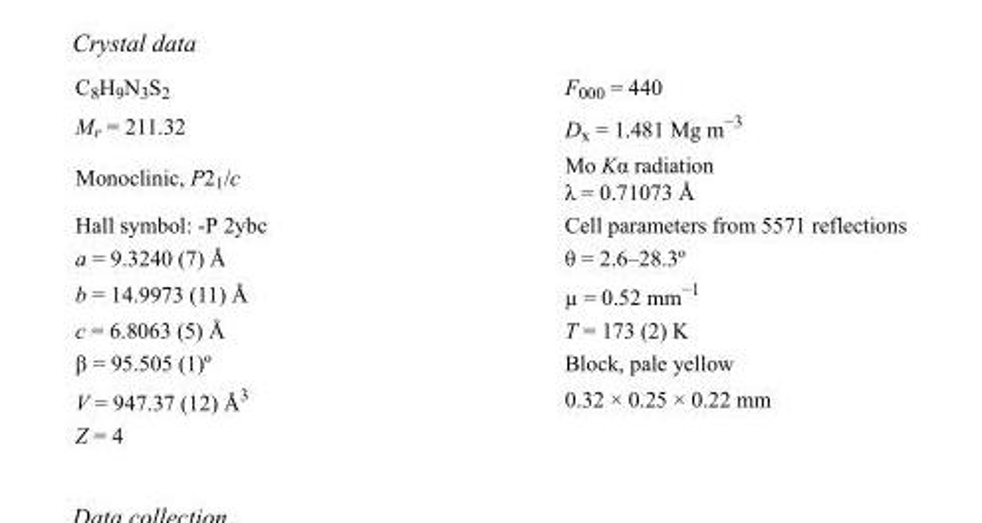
<table><tbody><tr><td>C<sub>8</sub>H<sub>9</sub>N<sub>3</sub>S<sub>2</sub></td><td>F<sub>000</sub> = 440</td></tr><tr><td>M<sub>r</sub> = 211.32</td><td>D<sub>x</sub> = 1.481 Mg m<sup>−3</sup></td></tr><tr><td>Monoclinic, P2<sub>1</sub>/c</td><td>Mo Kα radiation λ = 0.71073 Å</td></tr><tr><td>Hall symbol: -P 2ybc</td><td>Cell parameters from 5571 reflections</td></tr><tr><td>a = 9.3240 (7) Å</td><td>θ = 2.6–28.3º</td></tr><tr><td>b = 14.9973 (11) Å</td><td>µ = 0.52 mm<sup>−1</sup></td></tr><tr><td>c = 6.8063 (5) Å</td><td>T = 173 (2) K</td></tr><tr><td>β = 95.505 (1)º</td><td>Block, pale yellow</td></tr><tr><td>V = 947.37 (12) Å<sup>3</sup></td><td>0.32 × 0.25 × 0.22 mm</td></tr><tr><td>Z = 4</td><td></td></tr></tbody></table>